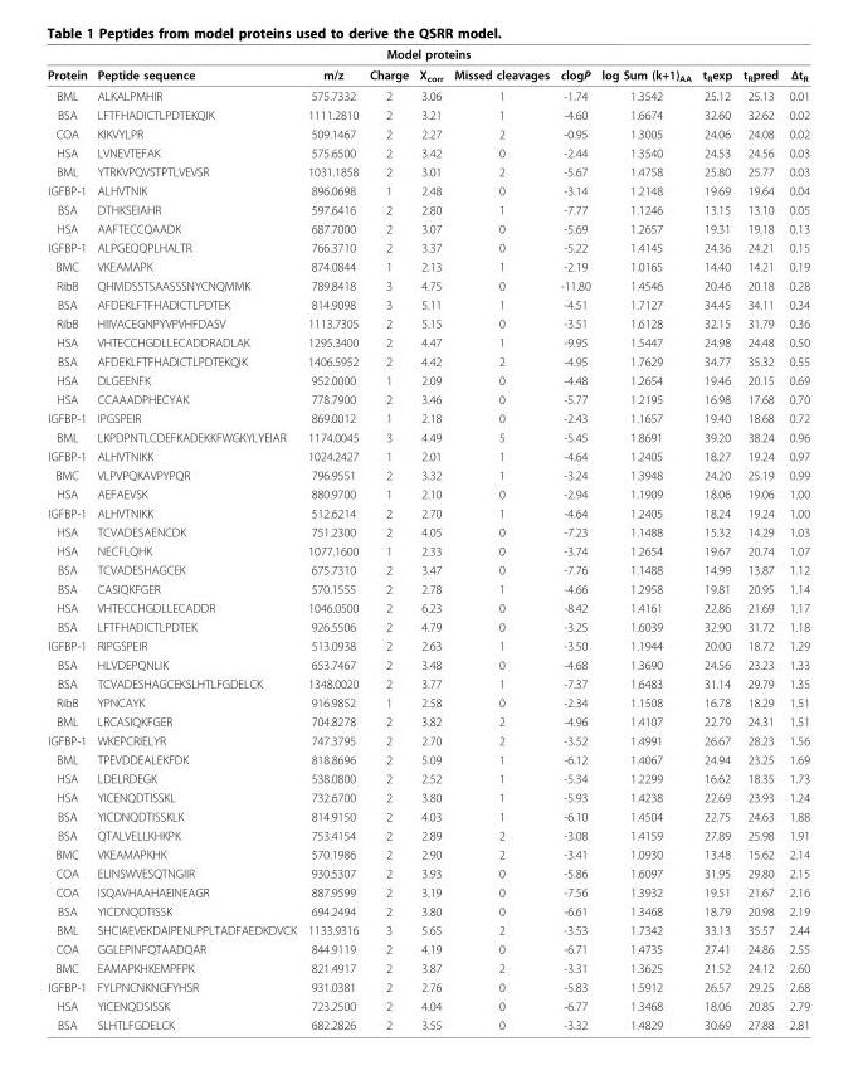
<table><thead><tr><td colspan="11">Model proteins</td></tr><tr><td>Protein</td><td>Peptide sequence</td><td>m/z</td><td>Charge</td><td>X<sub>corr</sub></td><td>Missed cleavages</td><td>clogP</td><td>log Sum (k+1)<sub>AA</sub></td><td>t<sub>R</sub>exp</td><td>t<sub>R</sub>pred</td><td>Δt<sub>R</sub></td></tr></thead><tbody><tr><td>BML</td><td>ALKALPMHIR</td><td>575.7332</td><td>2</td><td>3.06</td><td>1</td><td>-1.74</td><td>1.3542</td><td>25.12</td><td>25.13</td><td>0.01</td></tr><tr><td>BSA</td><td>LFTFHADICTLPDTEKQIK</td><td>1111.2810</td><td>2</td><td>3.21</td><td>1</td><td>-4.60</td><td>1.6674</td><td>32.60</td><td>32.62</td><td>0.02</td></tr><tr><td>COA</td><td>KIKVYLPR</td><td>509.1467</td><td>2</td><td>2.27</td><td>2</td><td>-0.95</td><td>1.3005</td><td>24.06</td><td>24.08</td><td>0.02</td></tr><tr><td>HSA</td><td>LVNEVTEFAK</td><td>575.6500</td><td>2</td><td>3.42</td><td>0</td><td>-2.44</td><td>1.3540</td><td>24.53</td><td>24.56</td><td>0.03</td></tr><tr><td>BML</td><td>YTRKVPQVSTPTLVEVSR</td><td>1031.1858</td><td>2</td><td>3.01</td><td>2</td><td>-5.67</td><td>1.4758</td><td>25.80</td><td>25.77</td><td>0.03</td></tr><tr><td>IGFBP-1</td><td>ALHVTNIK</td><td>896.0698</td><td>1</td><td>2.48</td><td>0</td><td>-3.14</td><td>1.2148</td><td>19.69</td><td>19.64</td><td>0.04</td></tr><tr><td>BSA</td><td>DTHKSEIAHR</td><td>597.6416</td><td>2</td><td>2.80</td><td>1</td><td>-7.77</td><td>1.1246</td><td>13.15</td><td>13.10</td><td>0.05</td></tr><tr><td>HSA</td><td>AAFTECCQAADK</td><td>687.7000</td><td>2</td><td>3.07</td><td>0</td><td>-5.69</td><td>1.2657</td><td>19.31</td><td>19.18</td><td>0.13</td></tr><tr><td>IGFBP-1</td><td>ALPGEQQPLHALTR</td><td>766.3710</td><td>2</td><td>3.37</td><td>0</td><td>-5.22</td><td>1.4145</td><td>24.36</td><td>24.21</td><td>0.15</td></tr><tr><td>BMC</td><td>VKEAMAPK</td><td>874.0844</td><td>1</td><td>2.13</td><td>1</td><td>-2.19</td><td>1.0165</td><td>14.40</td><td>14.21</td><td>0.19</td></tr><tr><td>RibB</td><td>QHMDSSTSAASSSNYCNQMMK</td><td>789.8418</td><td>3</td><td>4.75</td><td>0</td><td>-11.80</td><td>1.4546</td><td>20.46</td><td>20.18</td><td>0.28</td></tr><tr><td>BSA</td><td>AFDEKLFTFHADICTLPDTEK</td><td>814.9098</td><td>3</td><td>5.11</td><td>1</td><td>-4.51</td><td>1.7127</td><td>34.45</td><td>34.11</td><td>0.34</td></tr><tr><td>RibB</td><td>HIIVACEGNPYVPVHFDASV</td><td>1113.7305</td><td>2</td><td>5.15</td><td>0</td><td>-3.51</td><td>1.6128</td><td>32.15</td><td>31.79</td><td>0.36</td></tr><tr><td>HSA</td><td>VHTECCHGDLLECADDRADLAK</td><td>1295.3400</td><td>2</td><td>4.47</td><td>1</td><td>-9.95</td><td>1.5447</td><td>24.98</td><td>24.48</td><td>0.50</td></tr><tr><td>BSA</td><td>AFDEKLFTFHADICTLPDTEKQIK</td><td>1406.5952</td><td>2</td><td>4.42</td><td>2</td><td>-4.95</td><td>1.7629</td><td>34.77</td><td>35.32</td><td>0.55</td></tr><tr><td>HSA</td><td>DLGEENFK</td><td>952.0000</td><td>1</td><td>2.09</td><td>0</td><td>-4.48</td><td>1.2654</td><td>19.46</td><td>20.15</td><td>0.69</td></tr><tr><td>HSA</td><td>CCAAADPHECYAK</td><td>778.7900</td><td>2</td><td>3.46</td><td>0</td><td>-5.77</td><td>1.2195</td><td>16.98</td><td>17.68</td><td>0.70</td></tr><tr><td>IGFBP-1</td><td>IPGSPEIR</td><td>869.0012</td><td>1</td><td>2.18</td><td>0</td><td>-2.43</td><td>1.1657</td><td>19.40</td><td>18.68</td><td>0.72</td></tr><tr><td>BML</td><td>LKPDPNTLCDEFKADEKKFWGKYLYEIAR</td><td>1174.0045</td><td>3</td><td>4.49</td><td>5</td><td>-5.45</td><td>1.8691</td><td>39.20</td><td>38.24</td><td>0.96</td></tr><tr><td>IGFBP-1</td><td>ALHVTNIKK</td><td>1024.2427</td><td>1</td><td>2.01</td><td>1</td><td>-4.64</td><td>1.2405</td><td>18.27</td><td>19.24</td><td>0.97</td></tr><tr><td>BMC</td><td>VLPVPQKAVPYPQR</td><td>796.9551</td><td>2</td><td>3.32</td><td>1</td><td>-3.24</td><td>1.3948</td><td>24.20</td><td>25.19</td><td>0.99</td></tr><tr><td>HSA</td><td>AEFAEVSK</td><td>880.9700</td><td>1</td><td>2.10</td><td>0</td><td>-2.94</td><td>1.1909</td><td>18.06</td><td>19.06</td><td>1.00</td></tr><tr><td>IGFBP-1</td><td>ALHVTNIKK</td><td>512.6214</td><td>2</td><td>2.70</td><td>1</td><td>-4.64</td><td>1.2405</td><td>18.24</td><td>19.24</td><td>1.00</td></tr><tr><td>HSA</td><td>TCVADESAENCDK</td><td>751.2300</td><td>2</td><td>4.05</td><td>0</td><td>-7.23</td><td>1.1488</td><td>15.32</td><td>14.29</td><td>1.03</td></tr><tr><td>HSA</td><td>NECFLQHK</td><td>1077.1600</td><td>1</td><td>2.33</td><td>0</td><td>-3.74</td><td>1.2654</td><td>19.67</td><td>20.74</td><td>1.07</td></tr><tr><td>BSA</td><td>TCVADESHAGCEK</td><td>675.7310</td><td>2</td><td>3.47</td><td>0</td><td>-7.76</td><td>1.1488</td><td>14.99</td><td>13.87</td><td>1.12</td></tr><tr><td>BSA</td><td>CASIQKFGER</td><td>570.1555</td><td>2</td><td>2.78</td><td>1</td><td>-4.66</td><td>1.2958</td><td>19.81</td><td>20.95</td><td>1.14</td></tr><tr><td>HSA</td><td>VHTECCHGDLLECADDR</td><td>1046.0500</td><td>2</td><td>6.23</td><td>0</td><td>-8.42</td><td>1.4161</td><td>22.86</td><td>21.69</td><td>1.17</td></tr><tr><td>BSA</td><td>LFTFHADICTLPDTEK</td><td>926.5506</td><td>2</td><td>4.79</td><td>0</td><td>-3.25</td><td>1.6039</td><td>32.90</td><td>31.72</td><td>1.18</td></tr><tr><td>IGFBP-1</td><td>RIPGSPEIR</td><td>513.0938</td><td>2</td><td>2.63</td><td>1</td><td>-3.50</td><td>1.1944</td><td>20.00</td><td>18.72</td><td>1.29</td></tr><tr><td>BSA</td><td>HLVDEPQNLIK</td><td>653.7467</td><td>2</td><td>3.48</td><td>0</td><td>-4.68</td><td>1.3690</td><td>24.56</td><td>23.23</td><td>1.33</td></tr><tr><td>BSA</td><td>TCVADESHAGCEKSLHTLFGDELCK</td><td>1348.0020</td><td>2</td><td>3.77</td><td>1</td><td>-7.37</td><td>1.6483</td><td>31.14</td><td>29.79</td><td>1.35</td></tr><tr><td>RibB</td><td>YPNCAYK</td><td>916.9852</td><td>1</td><td>2.58</td><td>0</td><td>-2.34</td><td>1.1508</td><td>16.78</td><td>18.29</td><td>1.51</td></tr><tr><td>BML</td><td>LRCASIQKFGER</td><td>704.8278</td><td>2</td><td>3.82</td><td>2</td><td>-4.96</td><td>1.4107</td><td>22.79</td><td>24.31</td><td>1.51</td></tr><tr><td>IGFBP-1</td><td>WKEPCRIELYR</td><td>747.3795</td><td>2</td><td>2.70</td><td>2</td><td>-3.52</td><td>1.4991</td><td>26.67</td><td>28.23</td><td>1.56</td></tr><tr><td>BML</td><td>TPEVDDEALEKFDK</td><td>818.8696</td><td>2</td><td>5.09</td><td>1</td><td>-6.12</td><td>1.4067</td><td>24.94</td><td>23.25</td><td>1.69</td></tr><tr><td>HSA</td><td>LDELRDEGK</td><td>538.0800</td><td>2</td><td>2.52</td><td>1</td><td>-5.34</td><td>1.2299</td><td>16.62</td><td>18.35</td><td>1.73</td></tr><tr><td>HSA</td><td>YICENQDTISSKL</td><td>732.6700</td><td>2</td><td>3.80</td><td>1</td><td>-5.93</td><td>1.4238</td><td>22.69</td><td>23.93</td><td>1.24</td></tr><tr><td>BSA</td><td>YICDNQDTISSKLK</td><td>814.9150</td><td>2</td><td>4.03</td><td>1</td><td>-6.10</td><td>1.4504</td><td>22.75</td><td>24.63</td><td>1.88</td></tr><tr><td>BSA</td><td>QTALVELLKHKPK</td><td>753.4154</td><td>2</td><td>2.89</td><td>2</td><td>-3.08</td><td>1.4159</td><td>27.89</td><td>25.98</td><td>1.91</td></tr><tr><td>BMC</td><td>VKEAMAPKHK</td><td>570.1986</td><td>2</td><td>2.90</td><td>2</td><td>-3.41</td><td>1.0930</td><td>13.48</td><td>15.62</td><td>2.14</td></tr><tr><td>COA</td><td>ELINSWVESQTNGIIR</td><td>930.5307</td><td>2</td><td>3.93</td><td>0</td><td>-5.86</td><td>1.6097</td><td>31.95</td><td>29.80</td><td>2.15</td></tr><tr><td>COA</td><td>ISQAVHAAHAEINEAGR</td><td>887.9599</td><td>2</td><td>3.19</td><td>0</td><td>-7.56</td><td>1.3932</td><td>19.51</td><td>21.67</td><td>2.16</td></tr><tr><td>BSA</td><td>YICDNQDTISSK</td><td>694.2494</td><td>2</td><td>3.80</td><td>0</td><td>-6.61</td><td>1.3468</td><td>18.79</td><td>20.98</td><td>2.19</td></tr><tr><td>BML</td><td>SHCIAEVEKDAIPENLPPLTADFAEDKDVCK</td><td>1133.9316</td><td>3</td><td>5.65</td><td>2</td><td>-3.53</td><td>1.7342</td><td>33.13</td><td>35.57</td><td>2.44</td></tr><tr><td>COA</td><td>GGLEPINFQTAADQAR</td><td>844.9119</td><td>2</td><td>4.19</td><td>0</td><td>-6.71</td><td>1.4735</td><td>27.41</td><td>24.86</td><td>2.55</td></tr><tr><td>BMC</td><td>EAMAPKHKEMPFPK</td><td>821.4917</td><td>2</td><td>3.87</td><td>2</td><td>-3.31</td><td>1.3625</td><td>21.52</td><td>24.12</td><td>2.60</td></tr><tr><td>IGFBP-1</td><td>FYLPNCNKNGFYHSR</td><td>931.0381</td><td>2</td><td>2.76</td><td>0</td><td>-5.83</td><td>1.5912</td><td>26.57</td><td>29.25</td><td>2.68</td></tr><tr><td>HSA</td><td>YICENQDSISSK</td><td>723.2500</td><td>2</td><td>4.04</td><td>0</td><td>-6.77</td><td>1.3468</td><td>18.06</td><td>20.85</td><td>2.79</td></tr><tr><td>BSA</td><td>SLHTLFGDELCK</td><td>682.2826</td><td>2</td><td>3.55</td><td>0</td><td>-3.32</td><td>1.4829</td><td>30.69</td><td>27.88</td><td>2.81</td></tr></tbody></table>